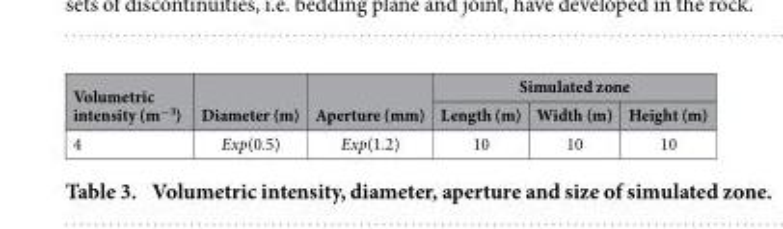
<table><thead><tr><td rowspan="2">Volumetric intensity (m<sup>−3</sup>)</td><td rowspan="2">Diameter (m)</td><td rowspan="2">Aperture (mm)</td><td colspan="3">Simulated zone</td></tr><tr><td>Length (m)</td><td>Width (m)</td><td>Height (m)</td></tr></thead><tbody><tr><td>4</td><td>Exp(0.5)</td><td>Exp(1.2)</td><td>10</td><td>10</td><td>10</td></tr></tbody></table>